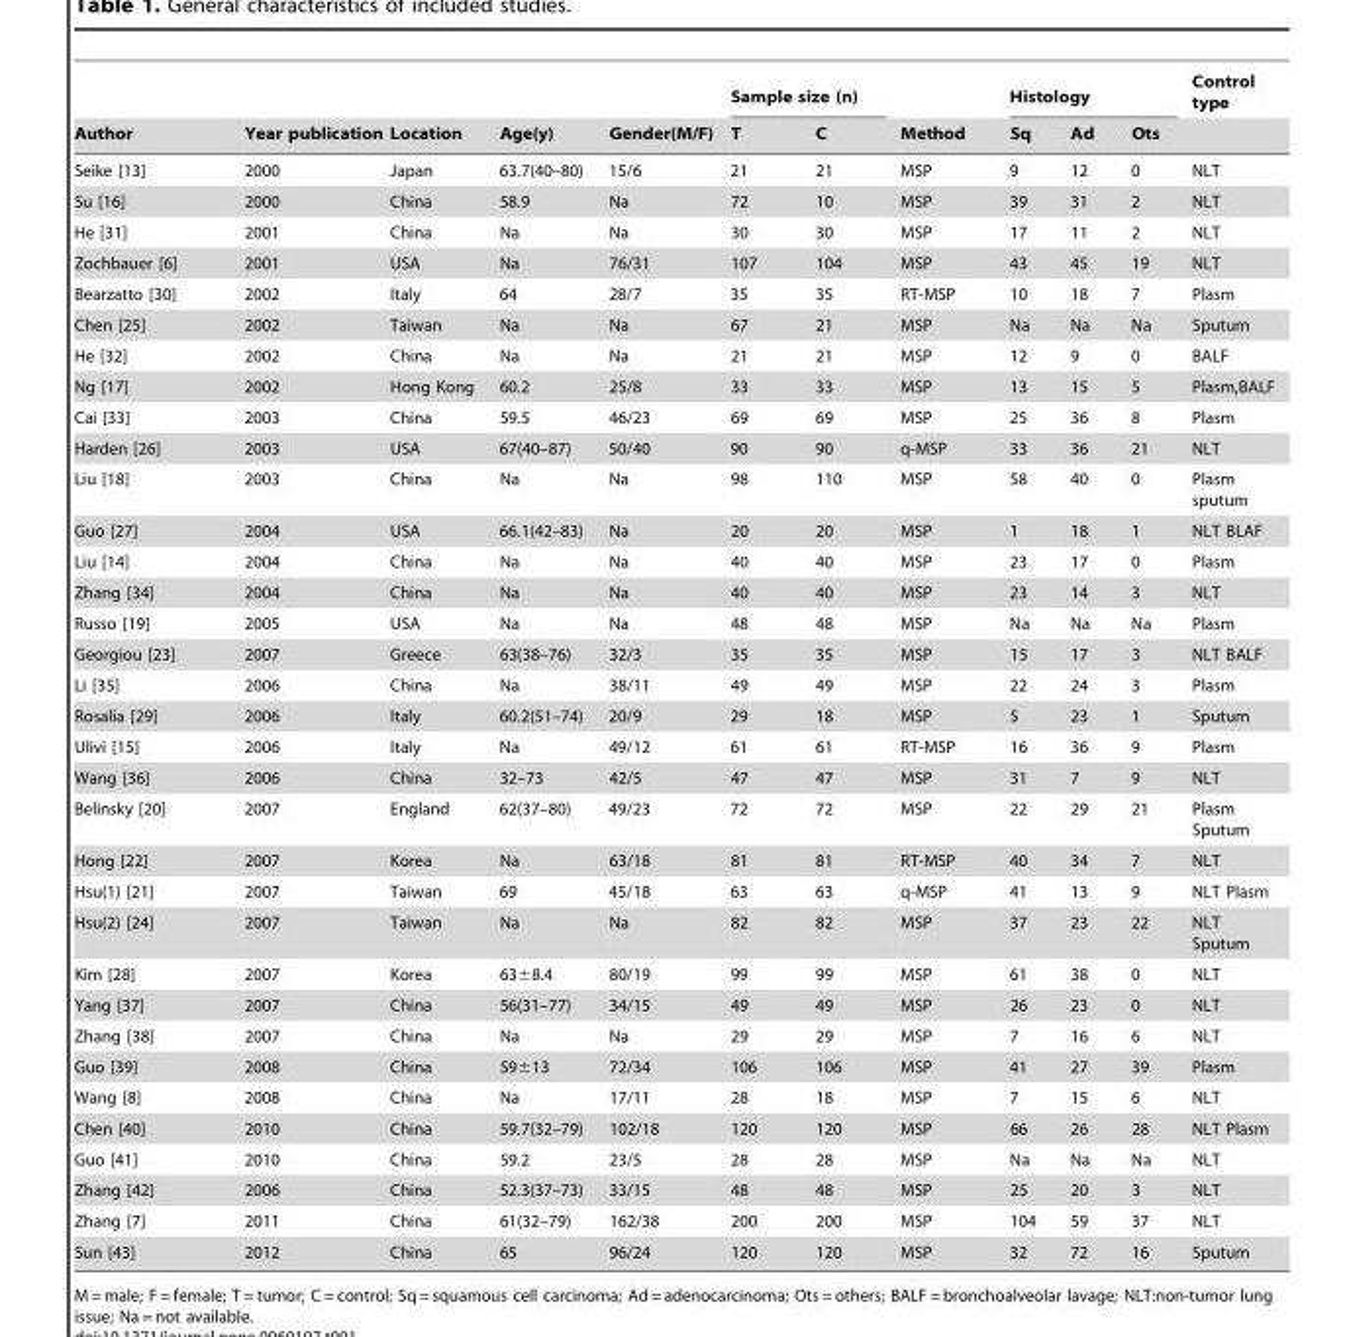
<table><thead><tr><td rowspan="2">Author</td><td rowspan="2">Year publication</td><td rowspan="2">Location</td><td rowspan="2">Age(y)</td><td rowspan="2">Gender(M/F)</td><td colspan="2">Sample size (n)</td><td rowspan="2">Method</td><td colspan="3">Histology</td><td rowspan="2">Control type</td></tr><tr><td>T</td><td>C</td><td>Sq</td><td>Ad</td><td>Ots</td></tr></thead><tbody><tr><td>Seike [13]</td><td>2000</td><td>Japan</td><td>63.7(40–80)</td><td>15/6</td><td>21</td><td>21</td><td>MSP</td><td>9</td><td>12</td><td>0</td><td>NLT</td></tr><tr><td>Su [16]</td><td>2000</td><td>China</td><td>58.9</td><td>Na</td><td>72</td><td>10</td><td>MSP</td><td>39</td><td>31</td><td>2</td><td>NLT</td></tr><tr><td>He [31]</td><td>2001</td><td>China</td><td>Na</td><td>Na</td><td>30</td><td>30</td><td>MSP</td><td>17</td><td>11</td><td>2</td><td>NLT</td></tr><tr><td>Zochbauer [6]</td><td>2001</td><td>USA</td><td>Na</td><td>76/31</td><td>107</td><td>104</td><td>MSP</td><td>43</td><td>45</td><td>19</td><td>NLT</td></tr><tr><td>Bearzatto [30]</td><td>2002</td><td>Italy</td><td>64</td><td>28/7</td><td>35</td><td>35</td><td>RT-MSP</td><td>10</td><td>18</td><td>7</td><td>Plasm</td></tr><tr><td>Chen [25]</td><td>2002</td><td>Taiwan</td><td>Na</td><td>Na</td><td>67</td><td>21</td><td>MSP</td><td>Na</td><td>Na</td><td>Na</td><td>Sputum</td></tr><tr><td>He [32]</td><td>2002</td><td>China</td><td>Na</td><td>Na</td><td>21</td><td>21</td><td>MSP</td><td>12</td><td>9</td><td>0</td><td>BALF</td></tr><tr><td>Ng [17]</td><td>2002</td><td>Hong Kong</td><td>60.2</td><td>25/8</td><td>33</td><td>33</td><td>MSP</td><td>13</td><td>15</td><td>5</td><td>Plasm,BALF</td></tr><tr><td>Cai [33]</td><td>2003</td><td>China</td><td>59.5</td><td>46/23</td><td>69</td><td>69</td><td>MSP</td><td>25</td><td>36</td><td>8</td><td>Plasm</td></tr><tr><td>Harden [26]</td><td>2003</td><td>USA</td><td>67(40–87)</td><td>50/40</td><td>90</td><td>90</td><td>q-MSP</td><td>33</td><td>36</td><td>21</td><td>NLT</td></tr><tr><td>Liu [18]</td><td>2003</td><td>China</td><td>Na</td><td>Na</td><td>98</td><td>110</td><td>MSP</td><td>58</td><td>40</td><td>0</td><td>Plasm sputum</td></tr><tr><td>Guo [27]</td><td>2004</td><td>USA</td><td>66.1(42–83)</td><td>Na</td><td>20</td><td>20</td><td>MSP</td><td>1</td><td>18</td><td>1</td><td>NLT BLAF</td></tr><tr><td>Liu [14]</td><td>2004</td><td>China</td><td>Na</td><td>Na</td><td>40</td><td>40</td><td>MSP</td><td>23</td><td>17</td><td>0</td><td>Plasm</td></tr><tr><td>Zhang [34]</td><td>2004</td><td>China</td><td>Na</td><td>Na</td><td>40</td><td>40</td><td>MSP</td><td>23</td><td>14</td><td>3</td><td>NLT</td></tr><tr><td>Russo [19]</td><td>2005</td><td>USA</td><td>Na</td><td>Na</td><td>48</td><td>48</td><td>MSP</td><td>Na</td><td>Na</td><td>Na</td><td>Plasm</td></tr><tr><td>Georgiou [23]</td><td>2007</td><td>Greece</td><td>63(38–76)</td><td>32/3</td><td>35</td><td>35</td><td>MSP</td><td>15</td><td>17</td><td>3</td><td>NLT BALF</td></tr><tr><td>Li [35]</td><td>2006</td><td>China</td><td>Na</td><td>38/11</td><td>49</td><td>49</td><td>MSP</td><td>22</td><td>24</td><td>3</td><td>Plasm</td></tr><tr><td>Rosalia [29]</td><td>2006</td><td>Italy</td><td>60.2(51–74)</td><td>20/9</td><td>29</td><td>18</td><td>MSP</td><td>5</td><td>23</td><td>1</td><td>Sputum</td></tr><tr><td>Ulivi [15]</td><td>2006</td><td>Italy</td><td>Na</td><td>49/12</td><td>61</td><td>61</td><td>RT-MSP</td><td>16</td><td>36</td><td>9</td><td>Plasm</td></tr><tr><td>Wang [36]</td><td>2006</td><td>China</td><td>32–73</td><td>42/5</td><td>47</td><td>47</td><td>MSP</td><td>31</td><td>7</td><td>9</td><td>NLT</td></tr><tr><td>Belinsky [20]</td><td>2007</td><td>England</td><td>62(37–80)</td><td>49/23</td><td>72</td><td>72</td><td>MSP</td><td>22</td><td>29</td><td>21</td><td>Plasm Sputum</td></tr><tr><td>Hong [22]</td><td>2007</td><td>Korea</td><td>Na</td><td>63/18</td><td>81</td><td>81</td><td>RT-MSP</td><td>40</td><td>34</td><td>7</td><td>NLT</td></tr><tr><td>Hsu(1) [21]</td><td>2007</td><td>Taiwan</td><td>69</td><td>45/18</td><td>63</td><td>63</td><td>q-MSP</td><td>41</td><td>13</td><td>9</td><td>NLT Plasm</td></tr><tr><td>Hsu(2) [24]</td><td>2007</td><td>Taiwan</td><td>Na</td><td>Na</td><td>82</td><td>82</td><td>MSP</td><td>37</td><td>23</td><td>22</td><td>NLT Sputum</td></tr><tr><td>Kim [28]</td><td>2007</td><td>Korea</td><td>63±8.4</td><td>80/19</td><td>99</td><td>99</td><td>MSP</td><td>61</td><td>38</td><td>0</td><td>NLT</td></tr><tr><td>Yang [37]</td><td>2007</td><td>China</td><td>56(31–77)</td><td>34/15</td><td>49</td><td>49</td><td>MSP</td><td>26</td><td>23</td><td>0</td><td>NLT</td></tr><tr><td>Zhang [38]</td><td>2007</td><td>China</td><td>Na</td><td>Na</td><td>29</td><td>29</td><td>MSP</td><td>7</td><td>16</td><td>6</td><td>NLT</td></tr><tr><td>Guo [39]</td><td>2008</td><td>China</td><td>59±13</td><td>72/34</td><td>106</td><td>106</td><td>MSP</td><td>41</td><td>27</td><td>39</td><td>Plasm</td></tr><tr><td>Wang [8]</td><td>2008</td><td>China</td><td>Na</td><td>17/11</td><td>28</td><td>18</td><td>MSP</td><td>7</td><td>15</td><td>6</td><td>NLT</td></tr><tr><td>Chen [40]</td><td>2010</td><td>China</td><td>59.7(32–79)</td><td>102/18</td><td>120</td><td>120</td><td>MSP</td><td>66</td><td>26</td><td>28</td><td>NLT Plasm</td></tr><tr><td>Guo [41]</td><td>2010</td><td>China</td><td>59.2</td><td>23/5</td><td>28</td><td>28</td><td>MSP</td><td>Na</td><td>Na</td><td>Na</td><td>NLT</td></tr><tr><td>Zhang [42]</td><td>2006</td><td>China</td><td>52.3(37–73)</td><td>33/15</td><td>48</td><td>48</td><td>MSP</td><td>25</td><td>20</td><td>3</td><td>NLT</td></tr><tr><td>Zhang [7]</td><td>2011</td><td>China</td><td>61(32–79)</td><td>162/38</td><td>200</td><td>200</td><td>MSP</td><td>104</td><td>59</td><td>37</td><td>NLT</td></tr><tr><td>Sun [43]</td><td>2012</td><td>China</td><td>65</td><td>96/24</td><td>120</td><td>120</td><td>MSP</td><td>32</td><td>72</td><td>16</td><td>Sputum</td></tr></tbody></table>